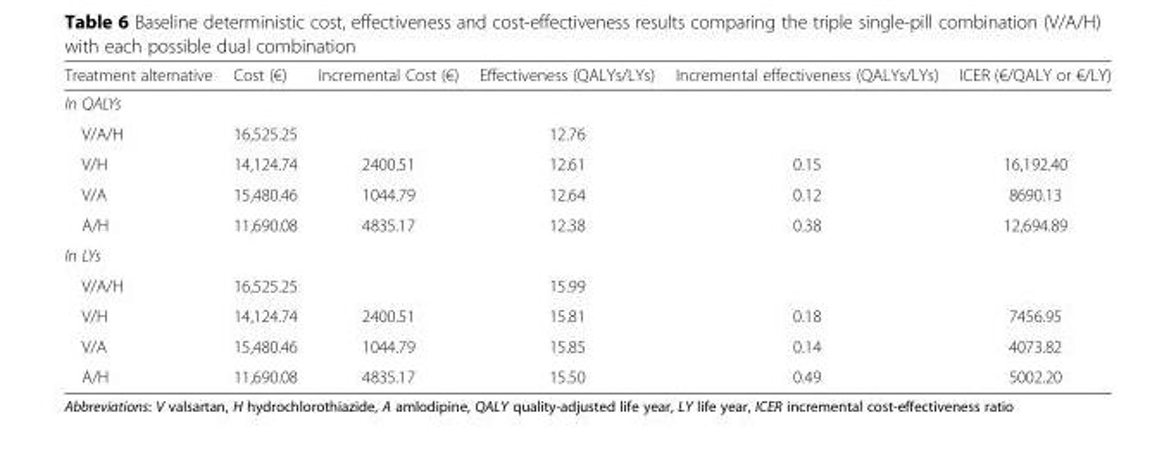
<table><thead><tr><td>Treatment alternative</td><td>Cost (€)</td><td>Incremental Cost (€)</td><td>Effectiveness (QALYs/LYs)</td><td>Incremental effectiveness (QALYs/LYs)</td><td>ICER (€/QALY or €/LY)</td></tr></thead><tbody><tr><td colspan="6">In QALYs</td></tr><tr><td>V/A/H</td><td>16,525.25</td><td></td><td>12.76</td><td></td><td></td></tr><tr><td>V/H</td><td>14,124.74</td><td>2400.51</td><td>12.61</td><td>0.15</td><td>16,192.40</td></tr><tr><td>V/A</td><td>15,480.46</td><td>1044.79</td><td>12.64</td><td>0.12</td><td>8690.13</td></tr><tr><td>A/H</td><td>11,690.08</td><td>4835.17</td><td>12.38</td><td>0.38</td><td>12,694.89</td></tr><tr><td colspan="6">In LYs</td></tr><tr><td>V/A/H</td><td>16,525.25</td><td></td><td>15.99</td><td></td><td></td></tr><tr><td>V/H</td><td>14,124.74</td><td>2400.51</td><td>15.81</td><td>0.18</td><td>7456.95</td></tr><tr><td>V/A</td><td>15,480.46</td><td>1044.79</td><td>15.85</td><td>0.14</td><td>4073.82</td></tr><tr><td>A/H</td><td>11,690.08</td><td>4835.17</td><td>15.50</td><td>0.49</td><td>5002.20</td></tr></tbody></table>